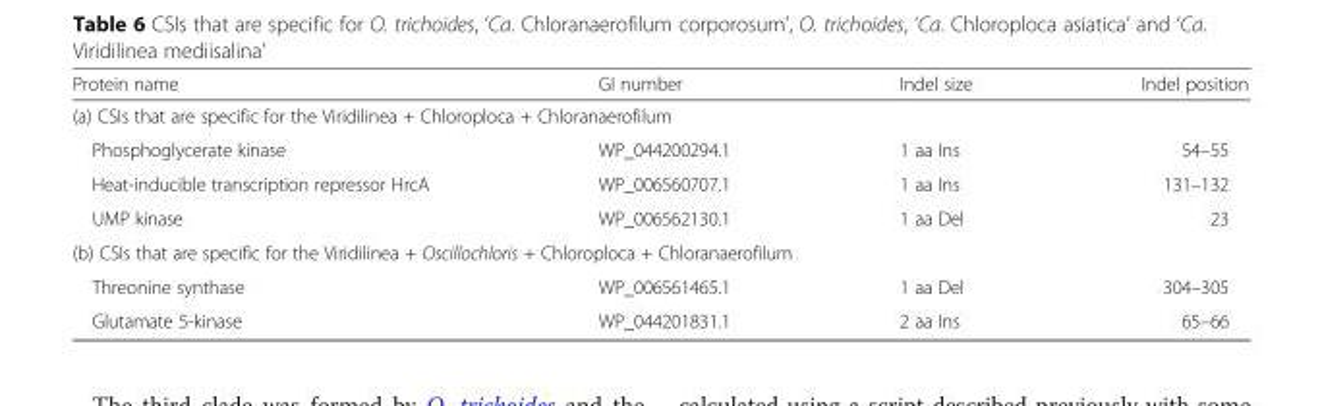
<table><thead><tr><td>Protein name</td><td>GI number</td><td>Indel size</td><td>Indel position</td></tr></thead><tbody><tr><td colspan="4">(a) CSIs that are specific for the Viridilinea + Chloroploca + Chloranaerofilum</td></tr><tr><td>Phosphoglycerate kinase</td><td>WP_044200294.1</td><td>1 aa Ins</td><td>54–55</td></tr><tr><td>Heat-inducible transcription repressor HrcA</td><td>WP_006560707.1</td><td>1 aa Ins</td><td>131–132</td></tr><tr><td>UMP kinase</td><td>WP_006562130.1</td><td>1 aa Del</td><td>23</td></tr><tr><td colspan="4">(b) CSIs that are specific for the Viridilinea + Oscillochloris + Chloroploca + Chloranaerofilum</td></tr><tr><td>Threonine synthase</td><td>WP_006561465.1</td><td>1 aa Del</td><td>304–305</td></tr><tr><td>Glutamate 5-kinase</td><td>WP_044201831.1</td><td>2 aa Ins</td><td>65–66</td></tr></tbody></table>